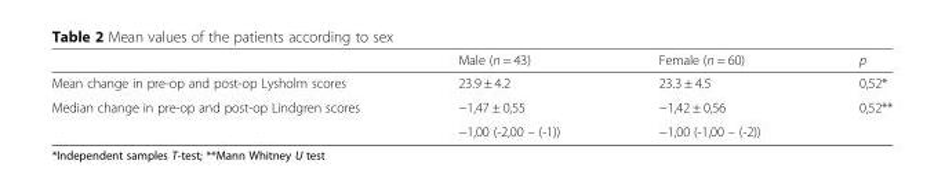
<table><thead><tr><td></td><td>Male (n = 43)</td><td>Female (n = 60)</td><td>p</td></tr></thead><tbody><tr><td>Mean change in pre-op and post-op Lysholm scores</td><td>23.9 ± 4.2</td><td>23.3 ± 4.5</td><td>0,52*</td></tr><tr><td rowspan="2">Median change in pre-op and post-op Lindgren scores</td><td>−1,47 ± 0,55</td><td>−1,42 ± 0,56</td><td rowspan="2">0,52**</td></tr><tr><td>−1,00 (-2,00 – (-1))</td><td>−1,00 (-1,00 – (-2))</td></tr></tbody></table>